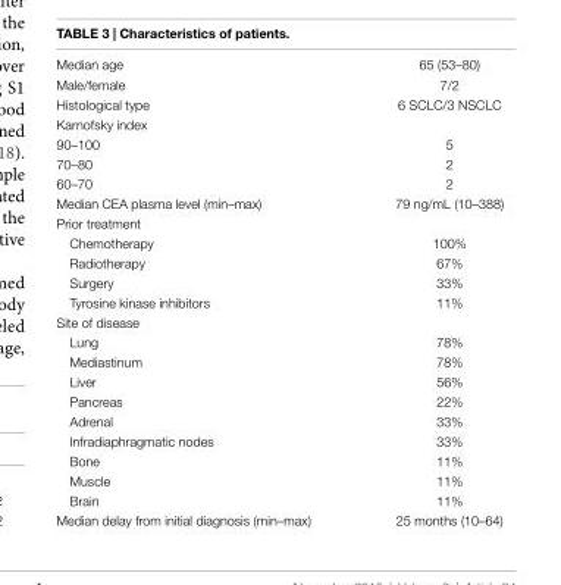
<table><tbody><tr><td>Median age</td><td>65 (53–80)</td></tr><tr><td>Male/female</td><td>7/2</td></tr><tr><td>Histological type</td><td>6 SCLC/3 NSCLC</td></tr><tr><td colspan="2">Karnofsky index</td></tr><tr><td>90–100</td><td>5</td></tr><tr><td>70–80</td><td>2</td></tr><tr><td>60–70</td><td>2</td></tr><tr><td>Median CEA plasma level (min–max)</td><td>79 ng/mL (10–388)</td></tr><tr><td colspan="2">Prior treatment</td></tr><tr><td>Chemotherapy</td><td>100%</td></tr><tr><td>Radiotherapy</td><td>67%</td></tr><tr><td>Surgery</td><td>33%</td></tr><tr><td>Tyrosine kinase inhibitors</td><td>11%</td></tr><tr><td colspan="2">Site of disease</td></tr><tr><td>Lung</td><td>78%</td></tr><tr><td>Mediastinum</td><td>78%</td></tr><tr><td>Liver</td><td>56%</td></tr><tr><td>Pancreas</td><td>22%</td></tr><tr><td>Adrenal</td><td>33%</td></tr><tr><td>Infradiaphragmatic nodes</td><td>33%</td></tr><tr><td>Bone</td><td>11%</td></tr><tr><td>Muscle</td><td>11%</td></tr><tr><td>Brain</td><td>11%</td></tr><tr><td>Median delay from initial diagnosis (min–max)</td><td>25 months (10–64)</td></tr></tbody></table>